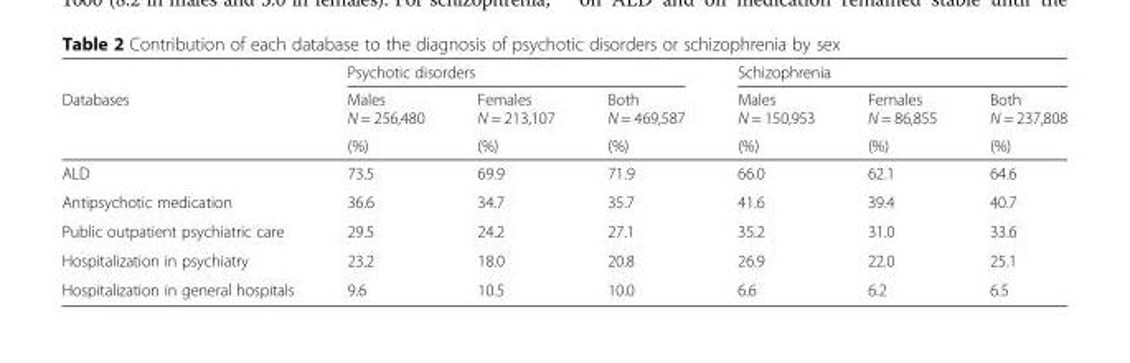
<table><thead><tr><td rowspan="3">Databases</td><td colspan="3">Psychotic disorders</td><td colspan="3">Schizophrenia</td></tr><tr><td rowspan="2">Males N = 256,480 (%)</td><td rowspan="2">Females N = 213,107 (%)</td><td rowspan="2">Both N = 469,587 (%)</td><td rowspan="2">Males N = 150,953 (%)</td><td rowspan="2">Females N = 86,855 (%)</td><td rowspan="2">Both N = 237,808 (%)</td></tr><tr></tr></thead><tbody><tr><td>ALD</td><td>73.5</td><td>69.9</td><td>71.9</td><td>66.0</td><td>62.1</td><td>64.6</td></tr><tr><td>Antipsychotic medication</td><td>36.6</td><td>34.7</td><td>35.7</td><td>41.6</td><td>39.4</td><td>40.7</td></tr><tr><td>Public outpatient psychiatric care</td><td>29.5</td><td>24.2</td><td>27.1</td><td>35.2</td><td>31.0</td><td>33.6</td></tr><tr><td>Hospitalization in psychiatry</td><td>23.2</td><td>18.0</td><td>20.8</td><td>26.9</td><td>22.0</td><td>25.1</td></tr><tr><td>Hospitalization in general hospitals</td><td>9.6</td><td>10.5</td><td>10.0</td><td>6.6</td><td>6.2</td><td>6.5</td></tr></tbody></table>